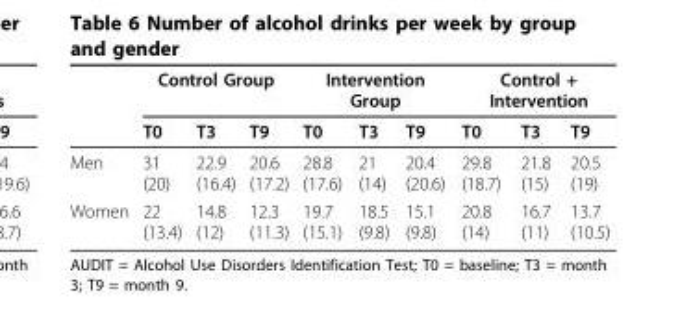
<table><thead><tr><td rowspan="2"></td><td colspan="3">Control Group</td><td colspan="3">Intervention Group</td><td colspan="3">Control + Intervention</td></tr><tr><td>T0</td><td>T3</td><td>T9</td><td>T0</td><td>T3</td><td>T9</td><td>T0</td><td>T3</td><td>T9</td></tr></thead><tbody><tr><td>Men</td><td>31 (20)</td><td>22.9 (16.4)</td><td>20.6 (17.2)</td><td>28.8 (17.6)</td><td>21 (14)</td><td>20.4 (20.6)</td><td>29.8 (18.7)</td><td>21.8 (15)</td><td>20.5 (19)</td></tr><tr><td>Women</td><td>22 (13.4)</td><td>14.8 (12)</td><td>12.3 (11.3)</td><td>19.7 (15.1)</td><td>18.5 (9.8)</td><td>15.1 (9.8)</td><td>20.8 (14)</td><td>16.7 (11)</td><td>13.7 (10.5)</td></tr></tbody></table>